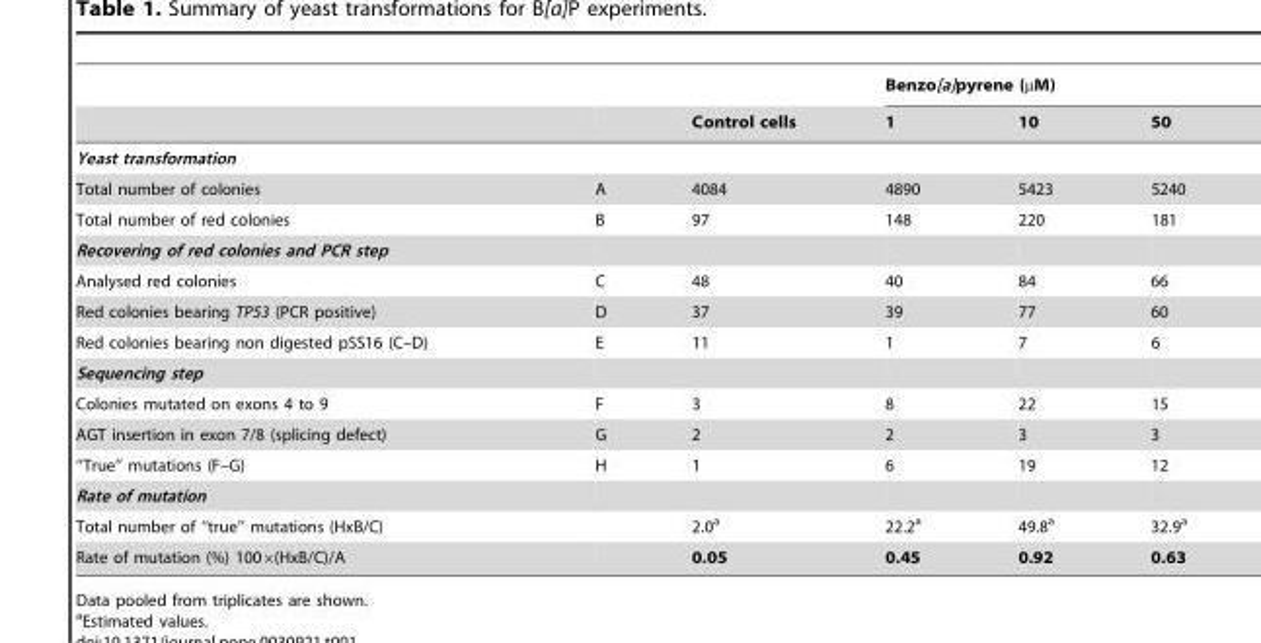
<table><thead><tr><td rowspan="2"></td><td rowspan="2"></td><td rowspan="2">Control cells</td><td colspan="3">Benzo[a]pyrene (µM)</td></tr><tr><td>1</td><td>10</td><td>50</td></tr></thead><tbody><tr><td colspan="6">Yeast transformation</td></tr><tr><td>Total number of colonies</td><td>A</td><td>4084</td><td>4890</td><td>5423</td><td>5240</td></tr><tr><td>Total number of red colonies</td><td>B</td><td>97</td><td>148</td><td>220</td><td>181</td></tr><tr><td colspan="6">Recovering of red colonies and PCR step</td></tr><tr><td>Analysed red colonies</td><td>C</td><td>48</td><td>40</td><td>84</td><td>66</td></tr><tr><td>Red colonies bearing TP53 (PCR positive)</td><td>D</td><td>37</td><td>39</td><td>77</td><td>60</td></tr><tr><td>Red colonies bearing non digested pSS16 (C–D)</td><td>E</td><td>11</td><td>1</td><td>7</td><td>6</td></tr><tr><td colspan="6">Sequencing step</td></tr><tr><td>Colonies mutated on exons 4 to 9</td><td>F</td><td>3</td><td>8</td><td>22</td><td>15</td></tr><tr><td>AGT insertion in exon 7/8 (splicing defect)</td><td>G</td><td>2</td><td>2</td><td>3</td><td>3</td></tr><tr><td>‘‘True’’ mutations (F–G)</td><td>H</td><td>1</td><td>6</td><td>19</td><td>12</td></tr><tr><td colspan="6">Rate of mutation</td></tr><tr><td>Total number of ‘‘true’’ mutations (HxB/C)</td><td></td><td>2.0<sup>a</sup></td><td>22.2<sup>a</sup></td><td>49.8<sup>a</sup></td><td>32.9<sup>a</sup></td></tr><tr><td>Rate of mutation (%) 100×(HxB/C)/A</td><td></td><td>0.05</td><td>0.45</td><td>0.92</td><td>0.63</td></tr></tbody></table>